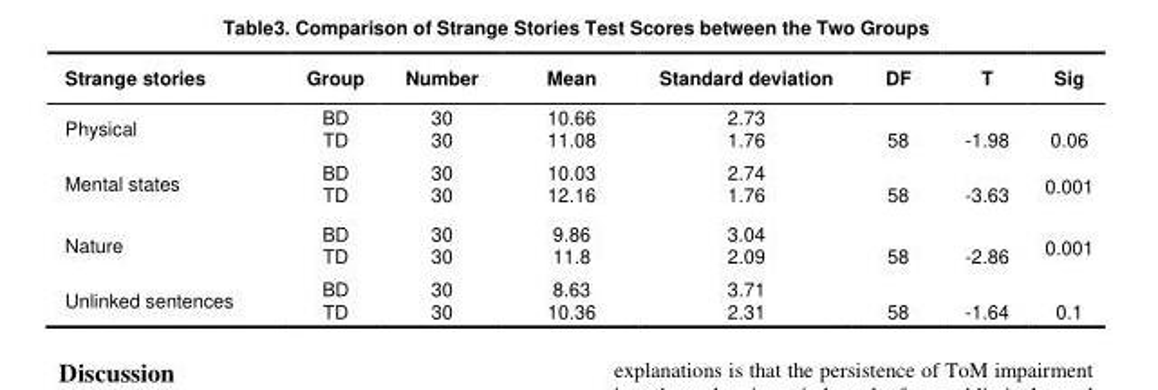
<table><thead><tr><td>Strange stories</td><td>Group</td><td>Number</td><td>Mean</td><td>Standard deviation</td><td>DF</td><td>T</td><td>Sig</td></tr></thead><tbody><tr><td>Physical</td><td>BD TD</td><td>30 30</td><td>10.66 11.08</td><td>2.73 1.76</td><td>58</td><td>-1.98</td><td>0.06</td></tr><tr><td>Mental states</td><td>BD TD</td><td>30 30</td><td>10.03 12.16</td><td>2.74 1.76</td><td>58</td><td>-3.63</td><td>0.001</td></tr><tr><td>Nature</td><td>BD TD</td><td>30 30</td><td>9.86 11.8</td><td>3.04 2.09</td><td>58</td><td>-2.86</td><td>0.001</td></tr><tr><td>Unlinked sentences</td><td>BD TD</td><td>30 30</td><td>8.63 10.36</td><td>3.71 2.31</td><td>58</td><td>-1.64</td><td>0.1</td></tr></tbody></table>